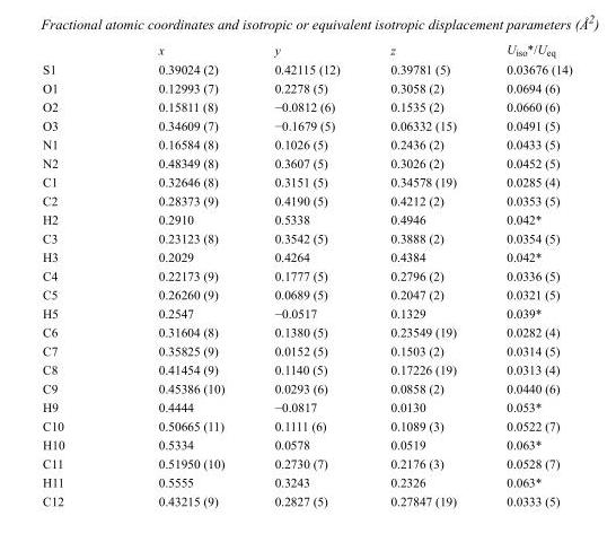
<table><thead><tr><td></td><td>x</td><td>y</td><td>z</td><td>U<sub>iso</sub>*/U<sub>eq</sub></td></tr></thead><tbody><tr><td>S1</td><td>0.39024 (2)</td><td>0.42115 (12)</td><td>0.39781 (5)</td><td>0.03676 (14)</td></tr><tr><td>O1</td><td>0.12993 (7)</td><td>0.2278 (5)</td><td>0.3058 (2)</td><td>0.0694 (6)</td></tr><tr><td>O2</td><td>0.15811 (8)</td><td>−0.0812 (6)</td><td>0.1535 (2)</td><td>0.0660 (6)</td></tr><tr><td>O3</td><td>0.34609 (7)</td><td>−0.1679 (5)</td><td>0.06332 (15)</td><td>0.0491 (5)</td></tr><tr><td>N1</td><td>0.16584 (8)</td><td>0.1026 (5)</td><td>0.2436 (2)</td><td>0.0433 (5)</td></tr><tr><td>N2</td><td>0.48349 (8)</td><td>0.3607 (5)</td><td>0.3026 (2)</td><td>0.0452 (5)</td></tr><tr><td>C1</td><td>0.32646 (8)</td><td>0.3151 (5)</td><td>0.34578 (19)</td><td>0.0285 (4)</td></tr><tr><td>C2</td><td>0.28373 (9)</td><td>0.4190 (5)</td><td>0.4212 (2)</td><td>0.0353 (5)</td></tr><tr><td>H2</td><td>0.2910</td><td>0.5338</td><td>0.4946</td><td>0.042*</td></tr><tr><td>C3</td><td>0.23123 (8)</td><td>0.3542 (5)</td><td>0.3888 (2)</td><td>0.0354 (5)</td></tr><tr><td>H3</td><td>0.2029</td><td>0.4264</td><td>0.4384</td><td>0.042*</td></tr><tr><td>C4</td><td>0.22173 (9)</td><td>0.1777 (5)</td><td>0.2796 (2)</td><td>0.0336 (5)</td></tr><tr><td>C5</td><td>0.26260 (9)</td><td>0.0689 (5)</td><td>0.2047 (2)</td><td>0.0321 (5)</td></tr><tr><td>H5</td><td>0.2547</td><td>−0.0517</td><td>0.1329</td><td>0.039*</td></tr><tr><td>C6</td><td>0.31604 (8)</td><td>0.1380 (5)</td><td>0.23549 (19)</td><td>0.0282 (4)</td></tr><tr><td>C7</td><td>0.35825 (9)</td><td>0.0152 (5)</td><td>0.1503 (2)</td><td>0.0314 (5)</td></tr><tr><td>C8</td><td>0.41454 (9)</td><td>0.1140 (5)</td><td>0.17226 (19)</td><td>0.0313 (4)</td></tr><tr><td>C9</td><td>0.45386 (10)</td><td>0.0293 (6)</td><td>0.0858 (2)</td><td>0.0440 (6)</td></tr><tr><td>H9</td><td>0.4444</td><td>−0.0817</td><td>0.0130</td><td>0.053*</td></tr><tr><td>C10</td><td>0.50665 (11)</td><td>0.1111 (6)</td><td>0.1089 (3)</td><td>0.0522 (7)</td></tr><tr><td>H10</td><td>0.5334</td><td>0.0578</td><td>0.0519</td><td>0.063*</td></tr><tr><td>C11</td><td>0.51950 (10)</td><td>0.2730 (7)</td><td>0.2176 (3)</td><td>0.0528 (7)</td></tr><tr><td>H11</td><td>0.5555</td><td>0.3243</td><td>0.2326</td><td>0.063*</td></tr><tr><td>C12</td><td>0.43215 (9)</td><td>0.2827 (5)</td><td>0.27847 (19)</td><td>0.0333 (5)</td></tr></tbody></table>